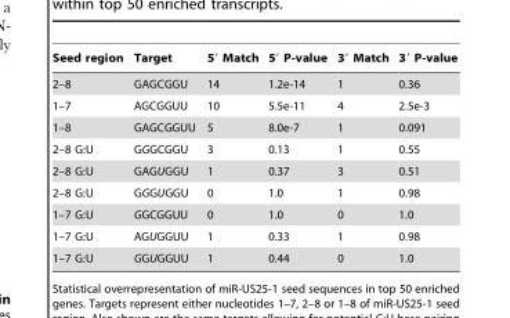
<table><thead><tr><td>Seed region</td><td>Target</td><td>5′ Match</td><td>5′ P-value</td><td>3′ Match</td><td>3′ P-value</td></tr></thead><tbody><tr><td>2–8</td><td>GAGCGGU</td><td>14</td><td>1.2e-14</td><td>1</td><td>0.36</td></tr><tr><td>1–7</td><td>AGCGGUU</td><td>10</td><td>5.5e-11</td><td>4</td><td>2.5e-3</td></tr><tr><td>1–8</td><td>GAGCGGUU</td><td>5</td><td>8.0e-7</td><td>1</td><td>0.091</td></tr><tr><td>2–8 G:U</td><td>GGGCGGU</td><td>3</td><td>0.13</td><td>1</td><td>0.55</td></tr><tr><td>2–8 G:U</td><td>GAGUGGU</td><td>1</td><td>0.37</td><td>3</td><td>0.51</td></tr><tr><td>2–8 G:U</td><td>GGGUGGU</td><td>0</td><td>1.0</td><td>1</td><td>0.98</td></tr><tr><td>1–7 G:U</td><td>GGCGGUU</td><td>0</td><td>1.0</td><td>0</td><td>1.0</td></tr><tr><td>1–7 G:U</td><td>AGUGGUU</td><td>1</td><td>0.33</td><td>1</td><td>0.98</td></tr><tr><td>1–7 G:U</td><td>GGUGGUU</td><td>1</td><td>0.44</td><td>0</td><td>1.0</td></tr></tbody></table>